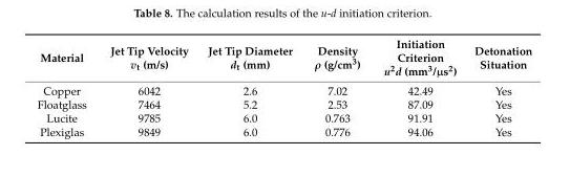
<table><thead><tr><td>Material</td><td>Jet Tip Velocity v<sub>t</sub> (m/s)</td><td>Jet Tip Diameter d<sub>t</sub> (mm)</td><td>Density ρ (g/cm<sup>3</sup>)</td><td>Initiation Criterion u<sup>2</sup>d (mm<sup>3</sup>/µs<sup>2</sup>)</td><td>Detonation Situation</td></tr></thead><tbody><tr><td>Copper</td><td>6042</td><td>2.6</td><td>7.02</td><td>42.49</td><td>Yes</td></tr><tr><td>Floatglass</td><td>7464</td><td>5.2</td><td>2.53</td><td>87.09</td><td>Yes</td></tr><tr><td>Lucite</td><td>9785</td><td>6.0</td><td>0.763</td><td>91.91</td><td>Yes</td></tr><tr><td>Plexiglas</td><td>9849</td><td>6.0</td><td>0.776</td><td>94.06</td><td>Yes</td></tr></tbody></table>